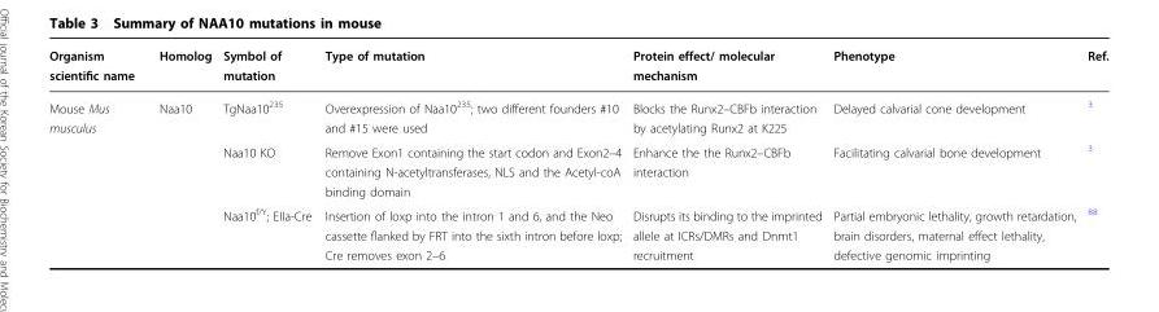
<table><thead><tr><td>Organism scientific name</td><td>Homolog</td><td>Symbol of mutation</td><td>Type of mutation</td><td>Protein effect/ molecular mechanism</td><td>Phenotype</td><td>Ref.</td></tr></thead><tbody><tr><td rowspan="3">Mouse Mus musculus</td><td rowspan="3">Naa10</td><td>TgNaa10<sup>235</sup></td><td>Overexpression of Naa10<sup>235</sup>; two different founders #10 and #15 were used</td><td>Blocks the Runx2–CBFb interaction by acetylating Runx2 at K225</td><td>Delayed calvarial cone development</td><td><sup>3</sup></td></tr><tr><td>Naa10 KO</td><td>Remove Exon1 containing the start codon and Exon2–4 containing N-acetyltransferases, NLS and the Acetyl-coA binding domain</td><td>Enhance the the Runx2–CBFb interaction</td><td>Facilitating calvarial bone development</td><td><sup>3</sup></td></tr><tr><td>Naa10<sup>f/Y</sup>; EIIa-Cre</td><td>Insertion of loxp into the intron 1 and 6, and the Neo cassette flanked by FRT into the sixth intron before loxp; Cre removes exon 2–6</td><td>Disrupts its binding to the imprinted allele at ICRs/DMRs and Dnmt1 recruitment</td><td>Partial embryonic lethality, growth retardation, brain disorders, maternal effect lethality, defective genomic imprinting</td><td><sup>88</sup></td></tr></tbody></table>